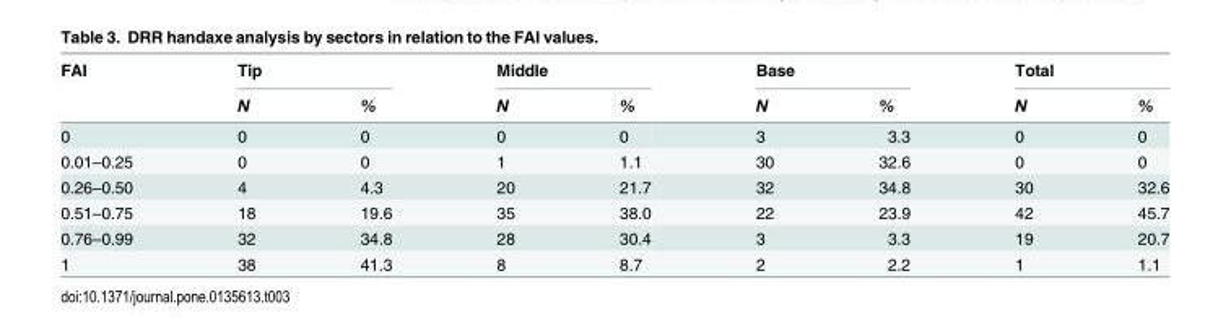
<table><thead><tr><td rowspan="2">FAI</td><td colspan="2">Tip</td><td colspan="2">Middle</td><td colspan="2">Base</td><td colspan="2">Total</td></tr><tr><td>N</td><td>%</td><td>N</td><td>%</td><td>N</td><td>%</td><td>N</td><td>%</td></tr></thead><tbody><tr><td>0</td><td>0</td><td>0</td><td>0</td><td>0</td><td>3</td><td>3.3</td><td>0</td><td>0</td></tr><tr><td>0.01–0.25</td><td>0</td><td>0</td><td>1</td><td>1.1</td><td>30</td><td>32.6</td><td>0</td><td>0</td></tr><tr><td>0.26–0.50</td><td>4</td><td>4.3</td><td>20</td><td>21.7</td><td>32</td><td>34.8</td><td>30</td><td>32.6</td></tr><tr><td>0.51–0.75</td><td>18</td><td>19.6</td><td>35</td><td>38.0</td><td>22</td><td>23.9</td><td>42</td><td>45.7</td></tr><tr><td>0.76–0.99</td><td>32</td><td>34.8</td><td>28</td><td>30.4</td><td>3</td><td>3.3</td><td>19</td><td>20.7</td></tr><tr><td>1</td><td>38</td><td>41.3</td><td>8</td><td>8.7</td><td>2</td><td>2.2</td><td>1</td><td>1.1</td></tr></tbody></table>